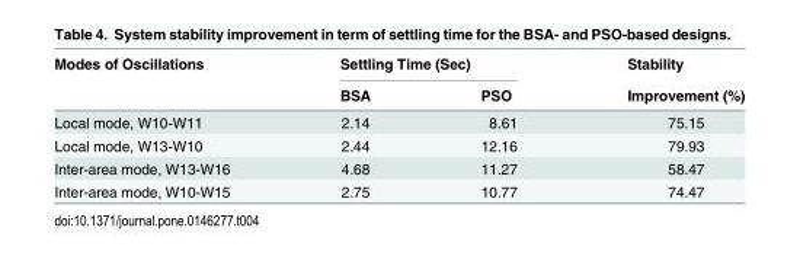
<table><thead><tr><td rowspan="2">Modes of Oscillations</td><td colspan="2">Settling Time (Sec)</td><td rowspan="2">Stability Improvement (%)</td></tr><tr><td>BSA</td><td>PSO</td></tr></thead><tbody><tr><td>Local mode, W10-W11</td><td>2.14</td><td>8.61</td><td>75.15</td></tr><tr><td>Local mode, W13-W10</td><td>2.44</td><td>12.16</td><td>79.93</td></tr><tr><td>Inter-area mode, W13-W16</td><td>4.68</td><td>11.27</td><td>58.47</td></tr><tr><td>Inter-area mode, W10-W15</td><td>2.75</td><td>10.77</td><td>74.47</td></tr></tbody></table>